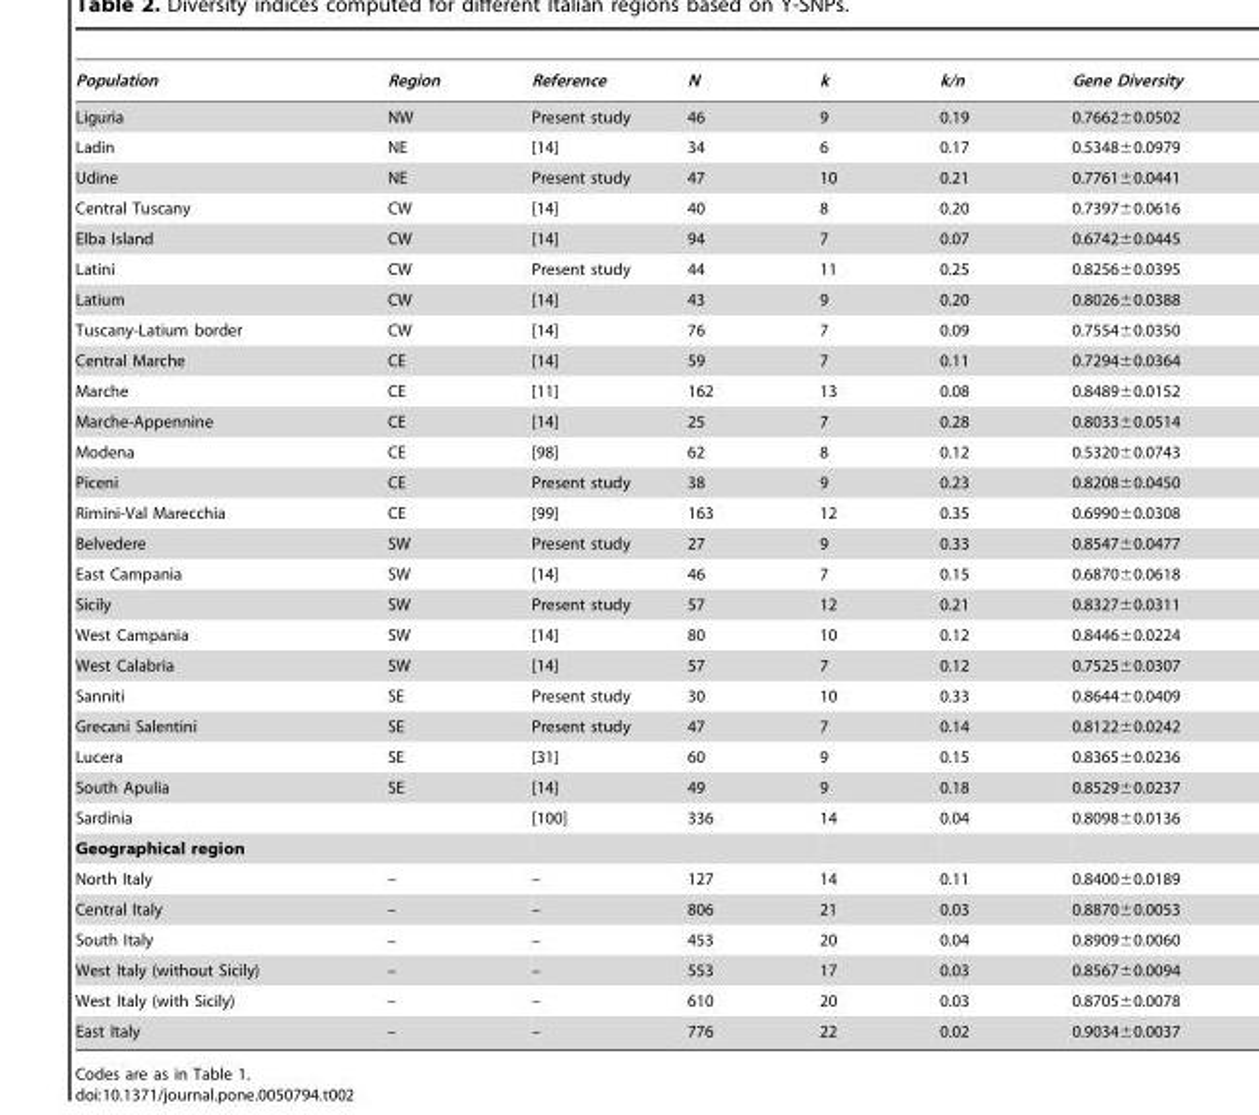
<table><thead><tr><td>Population</td><td>Region</td><td>Reference</td><td>N</td><td>k</td><td>k/n</td><td>Gene Diversity</td></tr></thead><tbody><tr><td>Liguria</td><td>NW</td><td>Present study</td><td>46</td><td>9</td><td>0.19</td><td>0.7662±0.0502</td></tr><tr><td>Ladin</td><td>NE</td><td>[14]</td><td>34</td><td>6</td><td>0.17</td><td>0.5348±0.0979</td></tr><tr><td>Udine</td><td>NE</td><td>Present study</td><td>47</td><td>10</td><td>0.21</td><td>0.7761±0.0441</td></tr><tr><td>Central Tuscany</td><td>CW</td><td>[14]</td><td>40</td><td>8</td><td>0.20</td><td>0.7397±0.0616</td></tr><tr><td>Elba Island</td><td>CW</td><td>[14]</td><td>94</td><td>7</td><td>0.07</td><td>0.6742±0.0445</td></tr><tr><td>Latini</td><td>CW</td><td>Present study</td><td>44</td><td>11</td><td>0.25</td><td>0.8256±0.0395</td></tr><tr><td>Latium</td><td>CW</td><td>[14]</td><td>43</td><td>9</td><td>0.20</td><td>0.8026±0.0388</td></tr><tr><td>Tuscany-Latium border</td><td>CW</td><td>[14]</td><td>76</td><td>7</td><td>0.09</td><td>0.7554±0.0350</td></tr><tr><td>Central Marche</td><td>CE</td><td>[14]</td><td>59</td><td>7</td><td>0.11</td><td>0.7294±0.0364</td></tr><tr><td>Marche</td><td>CE</td><td>[11]</td><td>162</td><td>13</td><td>0.08</td><td>0.8489±0.0152</td></tr><tr><td>Marche-Appennine</td><td>CE</td><td>[14]</td><td>25</td><td>7</td><td>0.28</td><td>0.8033±0.0514</td></tr><tr><td>Modena</td><td>CE</td><td>[98]</td><td>62</td><td>8</td><td>0.12</td><td>0.5320±0.0743</td></tr><tr><td>Piceni</td><td>CE</td><td>Present study</td><td>38</td><td>9</td><td>0.23</td><td>0.8208±0.0450</td></tr><tr><td>Rimini-Val Marecchia</td><td>CE</td><td>[99]</td><td>163</td><td>12</td><td>0.35</td><td>0.6990±0.0308</td></tr><tr><td>Belvedere</td><td>SW</td><td>Present study</td><td>27</td><td>9</td><td>0.33</td><td>0.8547±0.0477</td></tr><tr><td>East Campania</td><td>SW</td><td>[14]</td><td>46</td><td>7</td><td>0.15</td><td>0.6870±0.0618</td></tr><tr><td>Sicily</td><td>SW</td><td>Present study</td><td>57</td><td>12</td><td>0.21</td><td>0.8327±0.0311</td></tr><tr><td>West Campania</td><td>SW</td><td>[14]</td><td>80</td><td>10</td><td>0.12</td><td>0.8446±0.0224</td></tr><tr><td>West Calabria</td><td>SW</td><td>[14]</td><td>57</td><td>7</td><td>0.12</td><td>0.7525±0.0307</td></tr><tr><td>Sanniti</td><td>SE</td><td>Present study</td><td>30</td><td>10</td><td>0.33</td><td>0.8644±0.0409</td></tr><tr><td>Grecani Salentini</td><td>SE</td><td>Present study</td><td>47</td><td>7</td><td>0.14</td><td>0.8122±0.0242</td></tr><tr><td>Lucera</td><td>SE</td><td>[31]</td><td>60</td><td>9</td><td>0.15</td><td>0.8365±0.0236</td></tr><tr><td>South Apulia</td><td>SE</td><td>[14]</td><td>49</td><td>9</td><td>0.18</td><td>0.8529±0.0237</td></tr><tr><td>Sardinia</td><td></td><td>[100]</td><td>336</td><td>14</td><td>0.04</td><td>0.8098±0.0136</td></tr><tr><td colspan="7">Geographical region</td></tr><tr><td>North Italy</td><td>–</td><td>–</td><td>127</td><td>14</td><td>0.11</td><td>0.8400±0.0189</td></tr><tr><td>Central Italy</td><td>–</td><td>–</td><td>806</td><td>21</td><td>0.03</td><td>0.8870±0.0053</td></tr><tr><td>South Italy</td><td>–</td><td>–</td><td>453</td><td>20</td><td>0.04</td><td>0.8909±0.0060</td></tr><tr><td>West Italy (without Sicily)</td><td>–</td><td>–</td><td>553</td><td>17</td><td>0.03</td><td>0.8567±0.0094</td></tr><tr><td>West Italy (with Sicily)</td><td>–</td><td>–</td><td>610</td><td>20</td><td>0.03</td><td>0.8705±0.0078</td></tr><tr><td>East Italy</td><td>–</td><td>–</td><td>776</td><td>22</td><td>0.02</td><td>0.9034±0.0037</td></tr></tbody></table>